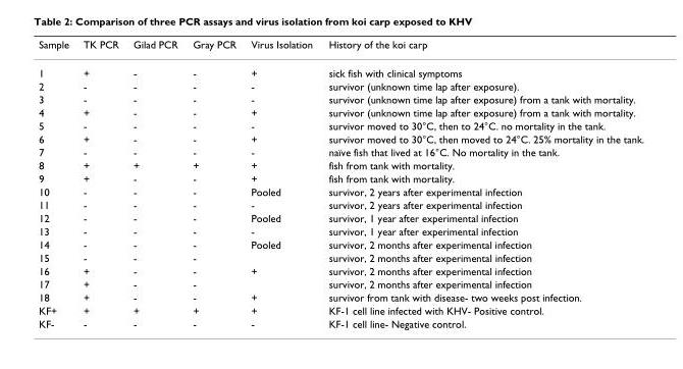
<table><thead><tr><td>Sample</td><td>TK PCR</td><td>Gilad PCR</td><td>Gray PCR</td><td>Virus Isolation</td><td>History of the koi carp</td></tr></thead><tbody><tr><td>1</td><td>+</td><td>-</td><td>-</td><td>+</td><td>sick fish with clinical symptoms</td></tr><tr><td>2</td><td>-</td><td>-</td><td>-</td><td>-</td><td>survivor (unknown time lap after exposure).</td></tr><tr><td>3</td><td>-</td><td>-</td><td>-</td><td>-</td><td>survivor (unknown time lap after exposure) from a tank with mortality.</td></tr><tr><td>4</td><td>+</td><td>-</td><td>-</td><td>+</td><td>survivor (unknown time lap after exposure) from a tank with mortality.</td></tr><tr><td>5</td><td>-</td><td>-</td><td>-</td><td>-</td><td>survivor moved to 30°C, then to 24°C. no mortality in the tank.</td></tr><tr><td>6</td><td>+</td><td>-</td><td>-</td><td>+</td><td>survivor moved to 30°C, then moved to 24°C. 25% mortality in the tank.</td></tr><tr><td>7</td><td>-</td><td>-</td><td>-</td><td>-</td><td>naïve fish that lived at 16°C. No mortality in the tank.</td></tr><tr><td>8</td><td>+</td><td>+</td><td>+</td><td>+</td><td>fish from tank with mortality.</td></tr><tr><td>9</td><td>+</td><td>-</td><td>-</td><td>+</td><td>fish from tank with mortality.</td></tr><tr><td>10</td><td>-</td><td>-</td><td>-</td><td>Pooled</td><td>survivor, 2 years after experimental infection</td></tr><tr><td>11</td><td>-</td><td>-</td><td>-</td><td>-</td><td>survivor, 2 years after experimental infection</td></tr><tr><td>12</td><td>-</td><td>-</td><td>-</td><td>Pooled</td><td>survivor, 1 year after experimental infection</td></tr><tr><td>13</td><td>-</td><td>-</td><td>-</td><td>-</td><td>survivor, 1 year after experimental infection</td></tr><tr><td>14</td><td>-</td><td>-</td><td>-</td><td>Pooled</td><td>survivor, 2 months after experimental infection</td></tr><tr><td>15</td><td>-</td><td>-</td><td>-</td><td></td><td>survivor, 2 months after experimental infection</td></tr><tr><td>16</td><td>+</td><td>-</td><td>-</td><td>+</td><td>survivor, 2 months after experimental infection</td></tr><tr><td>17</td><td>+</td><td>-</td><td>-</td><td></td><td>survivor, 2 months after experimental infection</td></tr><tr><td>18</td><td>+</td><td>-</td><td>-</td><td>+</td><td>survivor from tank with disease- two weeks post infection.</td></tr><tr><td>KF+</td><td>+</td><td>+</td><td>+</td><td>+</td><td>KF-1 cell line infected with KHV- Positive control.</td></tr><tr><td>KF-</td><td>-</td><td>-</td><td>-</td><td>-</td><td>KF-1 cell line- Negative control.</td></tr></tbody></table>